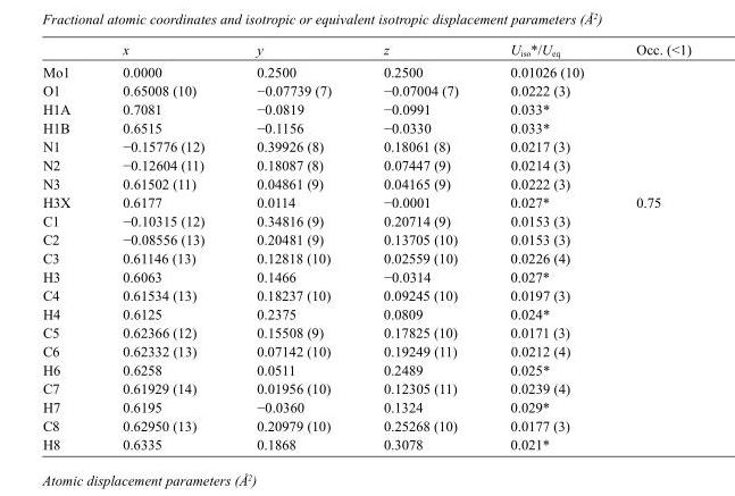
<table><thead><tr><td></td><td>x</td><td>y</td><td>z</td><td>U<sub>iso</sub>*/U<sub>eq</sub></td><td>Occ. (&lt;1)</td></tr></thead><tbody><tr><td>Mo1</td><td>0.0000</td><td>0.2500</td><td>0.2500</td><td>0.01026 (10)</td><td></td></tr><tr><td>O1</td><td>0.65008 (10)</td><td>−0.07739 (7)</td><td>−0.07004 (7)</td><td>0.0222 (3)</td><td></td></tr><tr><td>H1A</td><td>0.7081</td><td>−0.0819</td><td>−0.0991</td><td>0.033*</td><td></td></tr><tr><td>H1B</td><td>0.6515</td><td>−0.1156</td><td>−0.0330</td><td>0.033*</td><td></td></tr><tr><td>N1</td><td>−0.15776 (12)</td><td>0.39926 (8)</td><td>0.18061 (8)</td><td>0.0217 (3)</td><td></td></tr><tr><td>N2</td><td>−0.12604 (11)</td><td>0.18087 (8)</td><td>0.07447 (9)</td><td>0.0214 (3)</td><td></td></tr><tr><td>N3</td><td>0.61502 (11)</td><td>0.04861 (9)</td><td>0.04165 (9)</td><td>0.0222 (3)</td><td></td></tr><tr><td>H3X</td><td>0.6177</td><td>0.0114</td><td>−0.0001</td><td>0.027*</td><td>0.75</td></tr><tr><td>C1</td><td>−0.10315 (12)</td><td>0.34816 (9)</td><td>0.20714 (9)</td><td>0.0153 (3)</td><td></td></tr><tr><td>C2</td><td>−0.08556 (13)</td><td>0.20481 (9)</td><td>0.13705 (10)</td><td>0.0153 (3)</td><td></td></tr><tr><td>C3</td><td>0.61146 (13)</td><td>0.12818 (10)</td><td>0.02559 (10)</td><td>0.0226 (4)</td><td></td></tr><tr><td>H3</td><td>0.6063</td><td>0.1466</td><td>−0.0314</td><td>0.027*</td><td></td></tr><tr><td>C4</td><td>0.61534 (13)</td><td>0.18237 (10)</td><td>0.09245 (10)</td><td>0.0197 (3)</td><td></td></tr><tr><td>H4</td><td>0.6125</td><td>0.2375</td><td>0.0809</td><td>0.024*</td><td></td></tr><tr><td>C5</td><td>0.62366 (12)</td><td>0.15508 (9)</td><td>0.17825 (10)</td><td>0.0171 (3)</td><td></td></tr><tr><td>C6</td><td>0.62332 (13)</td><td>0.07142 (10)</td><td>0.19249 (11)</td><td>0.0212 (4)</td><td></td></tr><tr><td>H6</td><td>0.6258</td><td>0.0511</td><td>0.2489</td><td>0.025*</td><td></td></tr><tr><td>C7</td><td>0.61929 (14)</td><td>0.01956 (10)</td><td>0.12305 (11)</td><td>0.0239 (4)</td><td></td></tr><tr><td>H7</td><td>0.6195</td><td>−0.0360</td><td>0.1324</td><td>0.029*</td><td></td></tr><tr><td>C8</td><td>0.62950 (13)</td><td>0.20979 (10)</td><td>0.25268 (10)</td><td>0.0177 (3)</td><td></td></tr><tr><td>H8</td><td>0.6335</td><td>0.1868</td><td>0.3078</td><td>0.021*</td><td></td></tr></tbody></table>